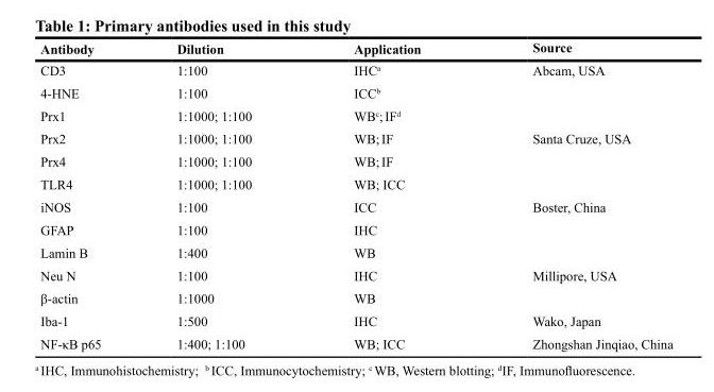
<table><thead><tr><td>Antibody</td><td>Dilution</td><td>Application</td><td>Source</td></tr></thead><tbody><tr><td>CD3</td><td>1:100</td><td>IHC<sup>a</sup></td><td>Abcam, USA</td></tr><tr><td>4-HNE</td><td>1:100</td><td>ICC<sup>b</sup></td><td></td></tr><tr><td>Prx1</td><td>1:1000; 1:100</td><td>WB<sup>c</sup>; IF<sup>d</sup></td><td></td></tr><tr><td>Prx2</td><td>1:1000; 1:100</td><td>WB; IF</td><td>Santa Cruze, USA</td></tr><tr><td>Prx4</td><td>1:1000; 1:100</td><td>WB; IF</td><td></td></tr><tr><td>TLR4</td><td>1:1000; 1:100</td><td>WB; ICC</td><td></td></tr><tr><td>iNOS</td><td>1:100</td><td>ICC</td><td>Boster, China</td></tr><tr><td>GFAP</td><td>1:100</td><td>IHC</td><td></td></tr><tr><td>Lamin B</td><td>1:400</td><td>WB</td><td></td></tr><tr><td>Neu N</td><td>1:100</td><td>IHC</td><td>Millipore, USA</td></tr><tr><td>β-actin</td><td>1:1000</td><td>WB</td><td></td></tr><tr><td>Iba-1</td><td>1:500</td><td>IHC</td><td>Wako, Japan</td></tr><tr><td>NF-κB p65</td><td>1:400; 1:100</td><td>WB; ICC</td><td>Zhongshan Jinqiao, China</td></tr></tbody></table>